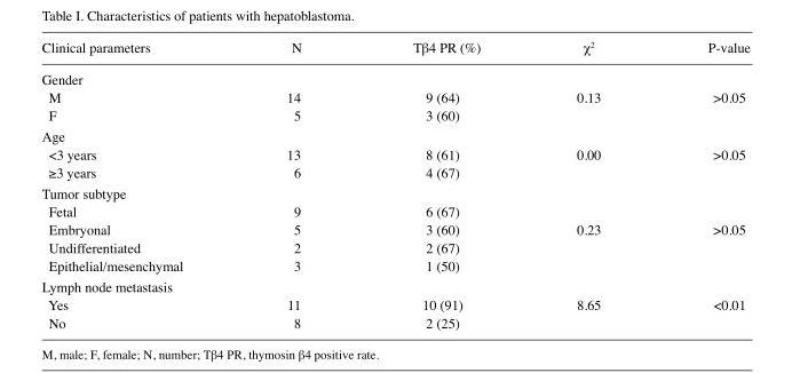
<table><thead><tr><td>Clinical parameters</td><td>N</td><td>Tβ4 PR (%)</td><td>χ<sup>2</sup></td><td>P-value</td></tr></thead><tbody><tr><td colspan="5">Gender</td></tr><tr><td>M</td><td>14</td><td>9 (64)</td><td>0.13</td><td>&gt;0.05</td></tr><tr><td>F</td><td>5</td><td>3 (60)</td><td></td><td></td></tr><tr><td colspan="5">Age</td></tr><tr><td>&lt;3 years</td><td>13</td><td>8 (61)</td><td>0.00</td><td>&gt;0.05</td></tr><tr><td>≥3 years</td><td>6</td><td>4 (67)</td><td></td><td></td></tr><tr><td colspan="5">Tumor subtype</td></tr><tr><td>Fetal</td><td>9</td><td>6 (67)</td><td></td><td></td></tr><tr><td>Embryonal</td><td>5</td><td>3 (60)</td><td>0.23</td><td>&gt;0.05</td></tr><tr><td>Undifferentiated</td><td>2</td><td>2 (67)</td><td></td><td></td></tr><tr><td>Epithelial/mesenchymal</td><td>3</td><td>1 (50)</td><td></td><td></td></tr><tr><td colspan="5">Lymph node metastasis</td></tr><tr><td>Yes</td><td>11</td><td>10 (91)</td><td>8.65</td><td>&lt;0.01</td></tr><tr><td>No</td><td>8</td><td>2 (25)</td><td></td><td></td></tr></tbody></table>